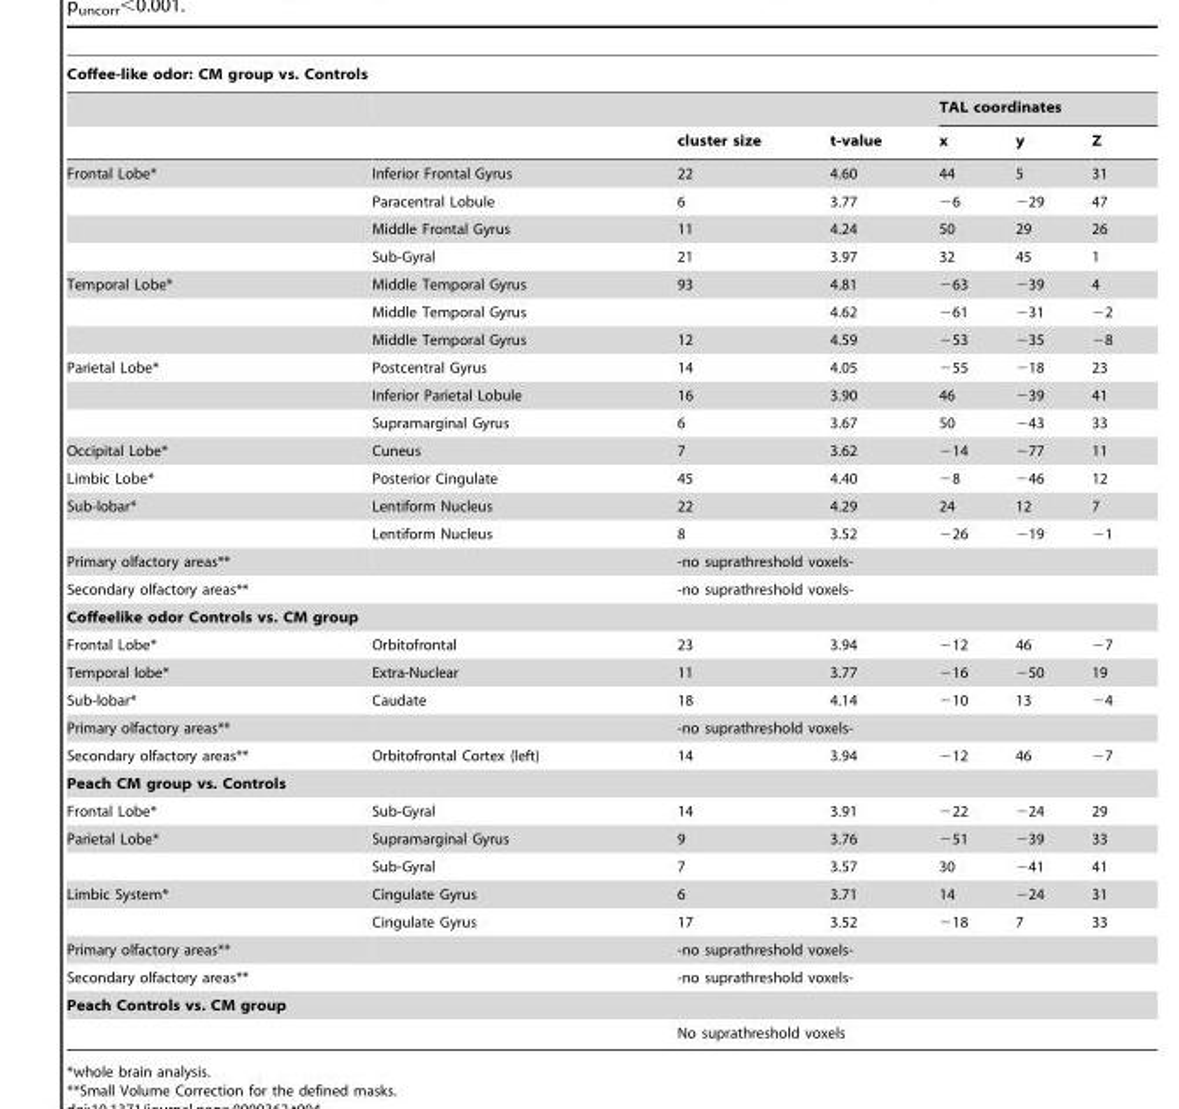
<table><thead><tr><td colspan="7">Coffee-like odor: CM group vs. Controls</td></tr><tr><td rowspan="2"></td><td rowspan="2"></td><td rowspan="2">cluster size</td><td rowspan="2">t-value</td><td colspan="3">TAL coordinates</td></tr><tr><td>x</td><td>y</td><td>Z</td></tr></thead><tbody><tr><td rowspan="4">Frontal Lobe*</td><td>Inferior Frontal Gyrus</td><td>22</td><td>4.60</td><td>44</td><td>5</td><td>31</td></tr><tr><td>Paracentral Lobule</td><td>6</td><td>3.77</td><td>−6</td><td>−29</td><td>47</td></tr><tr><td>Middle Frontal Gyrus</td><td>11</td><td>4.24</td><td>50</td><td>29</td><td>26</td></tr><tr><td>Sub-Gyral</td><td>21</td><td>3.97</td><td>32</td><td>45</td><td>1</td></tr><tr><td rowspan="3">Temporal Lobe*</td><td>Middle Temporal Gyrus</td><td>93</td><td>4.81</td><td>−63</td><td>−39</td><td>4</td></tr><tr><td>Middle Temporal Gyrus</td><td></td><td>4.62</td><td>−61</td><td>−31</td><td>−2</td></tr><tr><td>Middle Temporal Gyrus</td><td>12</td><td>4.59</td><td>−53</td><td>−35</td><td>−8</td></tr><tr><td rowspan="3">Parietal Lobe*</td><td>Postcentral Gyrus</td><td>14</td><td>4.05</td><td>−55</td><td>−18</td><td>23</td></tr><tr><td>Inferior Parietal Lobule</td><td>16</td><td>3.90</td><td>46</td><td>−39</td><td>41</td></tr><tr><td>Supramarginal Gyrus</td><td>6</td><td>3.67</td><td>50</td><td>−43</td><td>33</td></tr><tr><td>Occipital Lobe*</td><td>Cuneus</td><td>7</td><td>3.62</td><td>−14</td><td>−77</td><td>11</td></tr><tr><td>Limbic Lobe*</td><td>Posterior Cingulate</td><td>45</td><td>4.40</td><td>−8</td><td>−46</td><td>12</td></tr><tr><td rowspan="2">Sub-lobar*</td><td>Lentiform Nucleus</td><td>22</td><td>4.29</td><td>24</td><td>12</td><td>7</td></tr><tr><td>Lentiform Nucleus</td><td>8</td><td>3.52</td><td>−26</td><td>−19</td><td>−1</td></tr><tr><td>Primary olfactory areas**</td><td></td><td colspan="5">-no suprathreshold voxels-</td></tr><tr><td>Secondary olfactory areas**</td><td></td><td colspan="5">-no suprathreshold voxels-</td></tr><tr><td colspan="7">Coffeelike odor Controls vs. CM group</td></tr><tr><td>Frontal Lobe*</td><td>Orbitofrontal</td><td>23</td><td>3.94</td><td>−12</td><td>46</td><td>−7</td></tr><tr><td>Temporal lobe*</td><td>Extra-Nuclear</td><td>11</td><td>3.77</td><td>−16</td><td>−50</td><td>19</td></tr><tr><td>Sub-lobar*</td><td>Caudate</td><td>18</td><td>4.14</td><td>−10</td><td>13</td><td>−4</td></tr><tr><td>Primary olfactory areas**</td><td></td><td colspan="5">-no suprathreshold voxels-</td></tr><tr><td>Secondary olfactory areas**</td><td>Orbitofrontal Cortex (left)</td><td>14</td><td>3.94</td><td>−12</td><td>46</td><td>−7</td></tr><tr><td colspan="7">Peach CM group vs. Controls</td></tr><tr><td>Frontal Lobe*</td><td>Sub-Gyral</td><td>14</td><td>3.91</td><td>−22</td><td>−24</td><td>29</td></tr><tr><td rowspan="2">Parietal Lobe*</td><td>Supramarginal Gyrus</td><td>9</td><td>3.76</td><td>−51</td><td>−39</td><td>33</td></tr><tr><td>Sub-Gyral</td><td>7</td><td>3.57</td><td>30</td><td>−41</td><td>41</td></tr><tr><td rowspan="2">Limbic System*</td><td>Cingulate Gyrus</td><td>6</td><td>3.71</td><td>14</td><td>−24</td><td>31</td></tr><tr><td>Cingulate Gyrus</td><td>17</td><td>3.52</td><td>−18</td><td>7</td><td>33</td></tr><tr><td>Primary olfactory areas**</td><td></td><td colspan="5">-no suprathreshold voxels-</td></tr><tr><td>Secondary olfactory areas**</td><td></td><td colspan="5">-no suprathreshold voxels-</td></tr><tr><td colspan="7">Peach Controls vs. CM group</td></tr><tr><td></td><td></td><td colspan="5">No suprathreshold voxels</td></tr></tbody></table>